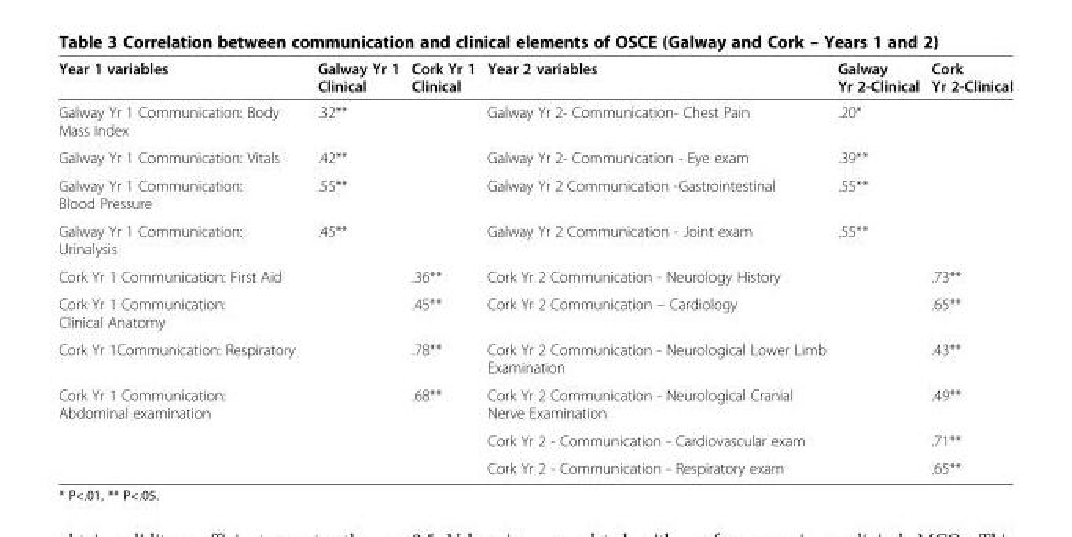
<table><thead><tr><td>Year 1 variables</td><td>Galway Yr 1 Clinical</td><td>Cork Yr 1 Clinical</td><td>Year 2 variables</td><td>Galway Yr 2-Clinical</td><td>Cork Yr 2-Clinical</td></tr></thead><tbody><tr><td>Galway Yr 1 Communication: Body Mass Index</td><td>.32**</td><td></td><td>Galway Yr 2- Communication- Chest Pain</td><td>.20*</td><td></td></tr><tr><td>Galway Yr 1 Communication: Vitals</td><td>.42**</td><td></td><td>Galway Yr 2- Communication - Eye exam</td><td>.39**</td><td></td></tr><tr><td>Galway Yr 1 Communication: Blood Pressure</td><td>.55**</td><td></td><td>Galway Yr 2 Communication -Gastrointestinal</td><td>.55**</td><td></td></tr><tr><td>Galway Yr 1 Communication: Urinalysis</td><td>.45**</td><td></td><td>Galway Yr 2 Communication - Joint exam</td><td>.55**</td><td></td></tr><tr><td>Cork Yr 1 Communication: First Aid</td><td></td><td>.36**</td><td>Cork Yr 2 Communication - Neurology History</td><td></td><td>.73**</td></tr><tr><td>Cork Yr 1 Communication: Clinical Anatomy</td><td></td><td>.45**</td><td>Cork Yr 2 Communication – Cardiology</td><td></td><td>.65**</td></tr><tr><td>Cork Yr 1Communication: Respiratory</td><td></td><td>.78**</td><td>Cork Yr 2 Communication - Neurological Lower Limb Examination</td><td></td><td>.43**</td></tr><tr><td rowspan="3">Cork Yr 1 Communication: Abdominal examination</td><td></td><td>.68**</td><td>Cork Yr 2 Communication - Neurological Cranial Nerve Examination</td><td></td><td>.49**</td></tr><tr><td></td><td></td><td>Cork Yr 2 - Communication - Cardiovascular exam</td><td></td><td>.71**</td></tr><tr><td></td><td></td><td>Cork Yr 2 - Communication - Respiratory exam</td><td></td><td>.65**</td></tr></tbody></table>